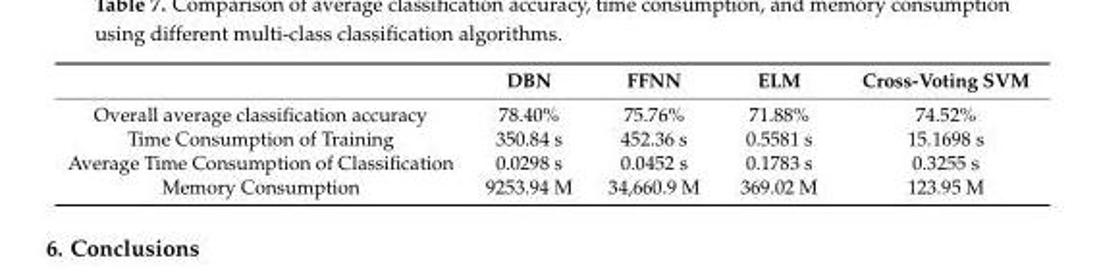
<table><thead><tr><td></td><td>DBN</td><td>FFNN</td><td>ELM</td><td>Cross-Voting SVM</td></tr></thead><tbody><tr><td>Overall average classification accuracy</td><td>78.40%</td><td>75.76%</td><td>71.88%</td><td>74.52%</td></tr><tr><td>Time Consumption of Training</td><td>350.84 s</td><td>452.36 s</td><td>0.5581 s</td><td>15.1698 s</td></tr><tr><td>Average Time Consumption of Classification</td><td>0.0298 s</td><td>0.0452 s</td><td>0.1783 s</td><td>0.3255 s</td></tr><tr><td>Memory Consumption</td><td>9253.94 M</td><td>34,660.9 M</td><td>369.02 M</td><td>123.95 M</td></tr></tbody></table>